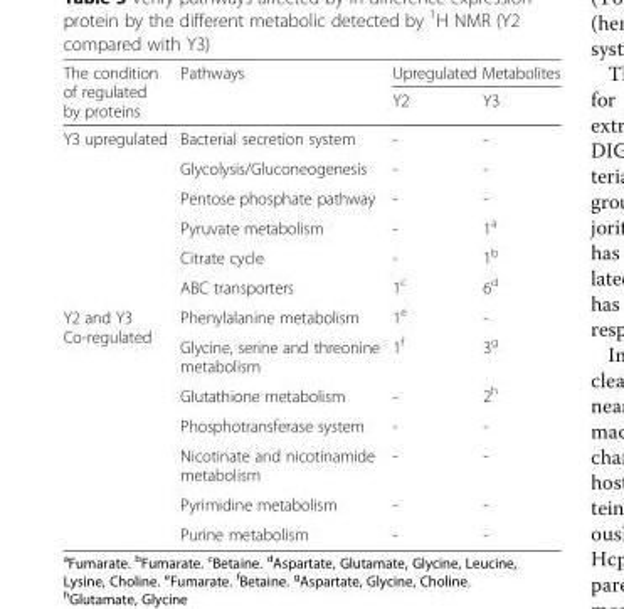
<table><thead><tr><td rowspan="2">The condition of regulated by proteins</td><td rowspan="2">Pathways</td><td colspan="2">Upregulated Metabolites</td></tr><tr><td>Y2</td><td>Y3</td></tr></thead><tbody><tr><td rowspan="6">Y3 upregulated</td><td>Bacterial secretion system</td><td>-</td><td>-</td></tr><tr><td>Glycolysis/Gluconeogenesis</td><td>-</td><td>-</td></tr><tr><td>Pentose phosphate pathway</td><td>-</td><td>-</td></tr><tr><td>Pyruvate metabolism</td><td>-</td><td>1<sup>a</sup></td></tr><tr><td>Citrate cycle</td><td>-</td><td>1<sup>b</sup></td></tr><tr><td>ABC transporters</td><td>1<sup>c</sup></td><td>6<sup>d</sup></td></tr><tr><td rowspan="7">Y2 and Y3 Co-regulated</td><td>Phenylalanine metabolism</td><td>1<sup>e</sup></td><td>-</td></tr><tr><td>Glycine, serine and threonine metabolism</td><td>1<sup>f</sup></td><td>3<sup>g</sup></td></tr><tr><td>Glutathione metabolism</td><td>-</td><td>2<sup>h</sup></td></tr><tr><td>Phosphotransferase system</td><td>-</td><td>-</td></tr><tr><td>Nicotinate and nicotinamide metabolism</td><td>-</td><td>-</td></tr><tr><td>Pyrimidine metabolism</td><td>-</td><td>-</td></tr><tr><td>Purine metabolism</td><td>-</td><td>-</td></tr></tbody></table>